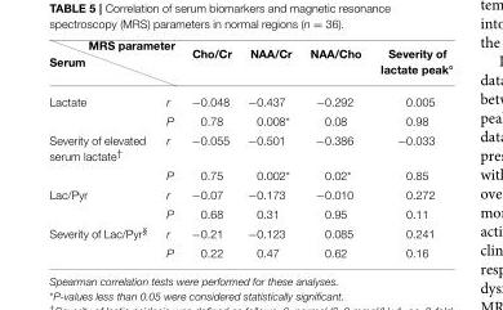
<table><thead><tr><td>Serum</td><td></td><td>Cho/Cr</td><td>NAA/Cr</td><td>NAA/Cho</td><td>Severity of lactate peak◦</td></tr></thead><tbody><tr><td rowspan="2">Lactate</td><td>r</td><td>−0.048</td><td>−0.437</td><td>−0.292</td><td>0.005</td></tr><tr><td>P</td><td>0.78</td><td>0.008*</td><td>0.08</td><td>0.98</td></tr><tr><td rowspan="2">Severity of elevated serum lactate<sup>†</sup></td><td>r</td><td>−0.055</td><td>−0.501</td><td>−0.386</td><td>−0.033</td></tr><tr><td>P</td><td>0.75</td><td>0.002*</td><td>0.02*</td><td>0.85</td></tr><tr><td rowspan="2">Lac/Pyr</td><td>r</td><td>−0.07</td><td>−0.173</td><td>−0.010</td><td>0.272</td></tr><tr><td>P</td><td>0.68</td><td>0.31</td><td>0.95</td><td>0.11</td></tr><tr><td rowspan="2">Severity of Lac/Pyr<sup>§</sup></td><td>r</td><td>−0.21</td><td>−0.123</td><td>0.085</td><td>0.241</td></tr><tr><td>P</td><td>0.22</td><td>0.47</td><td>0.62</td><td>0.16</td></tr></tbody></table>